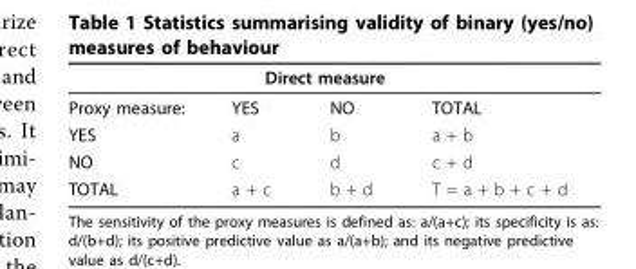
<table><thead><tr><td rowspan="2">Proxy measure:</td><td colspan="2">Direct measure</td><td rowspan="2">TOTAL</td></tr><tr><td>YES</td><td>NO</td></tr></thead><tbody><tr><td>YES</td><td>a</td><td>b</td><td>a + b</td></tr><tr><td>NO</td><td>c</td><td>d</td><td>c + d</td></tr><tr><td>TOTAL</td><td>a + c</td><td>b + d</td><td>T = a + b + c + d</td></tr></tbody></table>